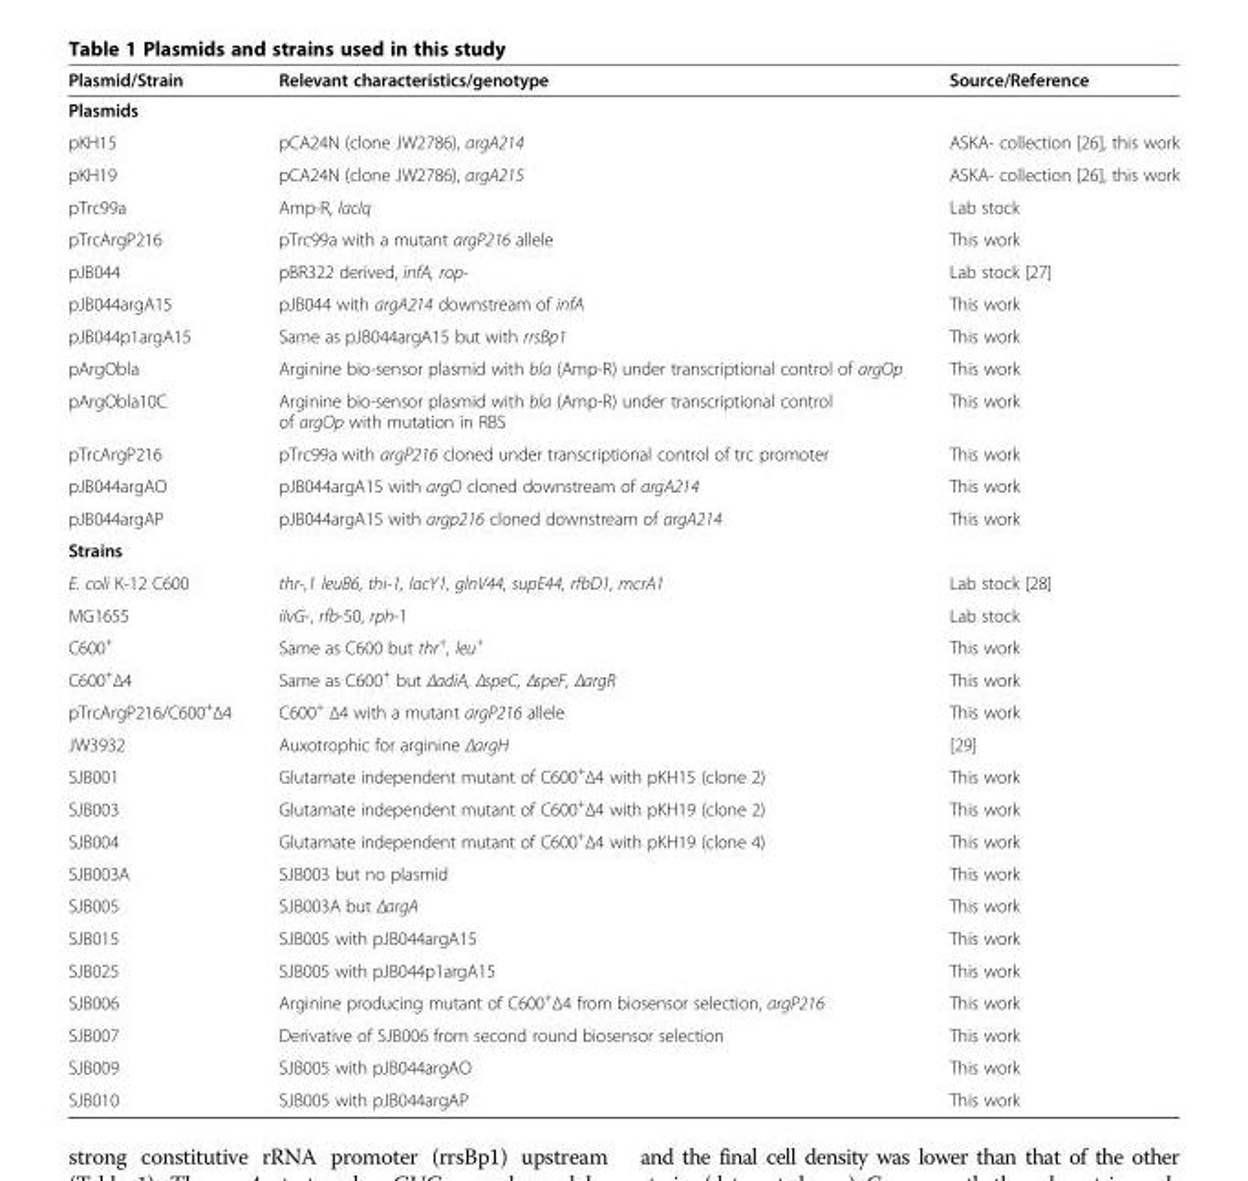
<table><thead><tr><td>Plasmid/Strain</td><td>Relevant characteristics/genotype</td><td>Source/Reference</td></tr></thead><tbody><tr><td colspan="3">Plasmids</td></tr><tr><td>pKH15</td><td>pCA24N (clone JW2786), argA214</td><td>ASKA- collection [26], this work</td></tr><tr><td>pKH19</td><td>pCA24N (clone JW2786), argA215</td><td>ASKA- collection [26], this work</td></tr><tr><td>pTrc99a</td><td>Amp-R, lacIq</td><td>Lab stock</td></tr><tr><td>pTrcArgP216</td><td>pTrc99a with a mutant argP216 allele</td><td>This work</td></tr><tr><td>pJB044</td><td>pBR322 derived, infA, rop-</td><td>Lab stock [27]</td></tr><tr><td>pJB044argA15</td><td>pJB044 with argA214 downstream of infA</td><td>This work</td></tr><tr><td>pJB044p1argA15</td><td>Same as pJB044argA15 but with rrsBp1</td><td>This work</td></tr><tr><td>pArgObla</td><td>Arginine bio-sensor plasmid with bla (Amp-R) under transcriptional control of argOp</td><td>This work</td></tr><tr><td>pArgObla10C</td><td>Arginine bio-sensor plasmid with bla (Amp-R) under transcriptional control of argOp with mutation in RBS</td><td>This work</td></tr><tr><td>pTrcArgP216</td><td>pTrc99a with argP216 cloned under transcriptional control of trc promoter</td><td>This work</td></tr><tr><td>pJB044argAO</td><td>pJB044argA15 with argO cloned downstream of argA214</td><td>This work</td></tr><tr><td>pJB044argAP</td><td>pJB044argA15 with argp216 cloned downstream of argA214</td><td>This work</td></tr><tr><td colspan="3">Strains</td></tr><tr><td>E. coli K-12 C600</td><td>thr-,1 leuB6, thi-1, lacY1, glnV44, supE44, rfbD1, mcrA1</td><td>Lab stock [28]</td></tr><tr><td>MG1655</td><td>ilvG-, rfb-50, rph-1</td><td>Lab stock</td></tr><tr><td>C600<sup>+</sup></td><td>Same as C600 but thr<sup>+</sup>, leu<sup>+</sup></td><td>This work</td></tr><tr><td>C600+Δ4</td><td>Same as C600+ but ΔadiA, ΔspeC, ΔspeF, ΔargR</td><td>This work</td></tr><tr><td>pTrcArgP216/C600+Δ4</td><td>C600+ Δ4 with a mutant argP216 allele</td><td>This work</td></tr><tr><td>JW3932</td><td>Auxotrophic for arginine ΔargH</td><td>[29]</td></tr><tr><td>SJB001</td><td>Glutamate independent mutant of C600+Δ4 with pKH15 (clone 2)</td><td>This work</td></tr><tr><td>SJB003</td><td>Glutamate independent mutant of C600+Δ4 with pKH19 (clone 2)</td><td>This work</td></tr><tr><td>SJB004</td><td>Glutamate independent mutant of C600+Δ4 with pKH19 (clone 4)</td><td>This work</td></tr><tr><td>SJB003A</td><td>SJB003 but no plasmid</td><td>This work</td></tr><tr><td>SJB005</td><td>SJB003A but ΔargA</td><td>This work</td></tr><tr><td>SJB015</td><td>SJB005 with pJB044argA15</td><td>This work</td></tr><tr><td>SJB025</td><td>SJB005 with pJB044p1argA15</td><td>This work</td></tr><tr><td>SJB006</td><td>Arginine producing mutant of C600+Δ4 from biosensor selection, argP216</td><td>This work</td></tr><tr><td>SJB007</td><td>Derivative of SJB006 from second round biosensor selection</td><td>This work</td></tr><tr><td>SJB009</td><td>SJB005 with pJB044argAO</td><td>This work</td></tr><tr><td>SJB010</td><td>SJB005 with pJB044argAP</td><td>This work</td></tr></tbody></table>